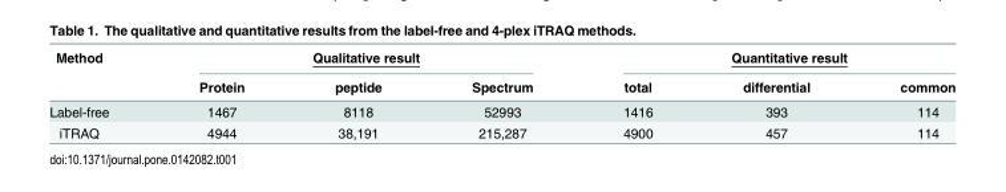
<table><thead><tr><td rowspan="2">Method</td><td colspan="3">Qualitative result</td><td colspan="3">Quantitative result</td></tr><tr><td>Protein</td><td>peptide</td><td>Spectrum</td><td>total</td><td>differential</td><td>common</td></tr></thead><tbody><tr><td>Label-free</td><td>1467</td><td>8118</td><td>52993</td><td>1416</td><td>393</td><td>114</td></tr><tr><td>iTRAQ</td><td>4944</td><td>38,191</td><td>215,287</td><td>4900</td><td>457</td><td>114</td></tr></tbody></table>